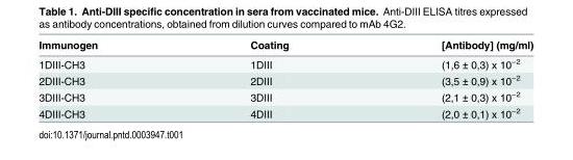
<table><thead><tr><td>Immunogen</td><td>Coating</td><td>[Antibody] (mg/ml)</td></tr></thead><tbody><tr><td>1DIII-CH3</td><td>1DIII</td><td>(1,6 ± 0,3) x 10<sup>−2</sup></td></tr><tr><td>2DIII-CH3</td><td>2DIII</td><td>(3,5 ± 0,9) x 10<sup>−2</sup></td></tr><tr><td>3DIII-CH3</td><td>3DIII</td><td>(2,1 ± 0,3) x 10<sup>−2</sup></td></tr><tr><td>4DIII-CH3</td><td>4DIII</td><td>(2,0 ± 0,1) x 10<sup>−2</sup></td></tr></tbody></table>